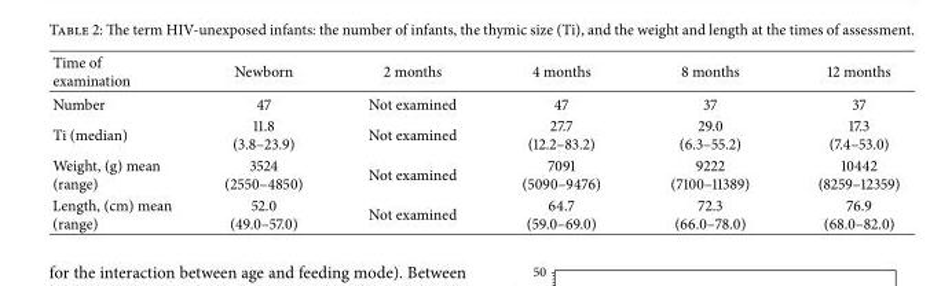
<table><thead><tr><td>Time of examination</td><td>Newborn</td><td>2 months</td><td>4 months</td><td>8 months</td><td>12 months</td></tr></thead><tbody><tr><td>Number</td><td>47</td><td>Not examined</td><td>47</td><td>37</td><td>37</td></tr><tr><td>Ti (median)</td><td>11.8 (3.8–23.9)</td><td>Not examined</td><td>27.7 (12.2–83.2)</td><td>29.0 (6.3–55.2)</td><td>17.3 (7.4–53.0)</td></tr><tr><td>Weight, (g) mean (range)</td><td>3524 (2550–4850)</td><td>Not examined</td><td>7091 (5090–9476)</td><td>9222 (7100–11389)</td><td>10442 (8259–12359)</td></tr><tr><td>Length, (cm) mean (range)</td><td>52.0 (49.0–57.0)</td><td>Not examined</td><td>64.7 (59.0–69.0)</td><td>72.3 (66.0–78.0)</td><td>76.9 (68.0–82.0)</td></tr></tbody></table>